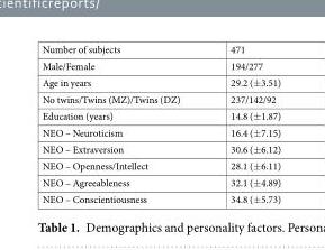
<table><tbody><tr><td>Number of subjects</td><td>471</td></tr><tr><td>Male/Female</td><td>194/277</td></tr><tr><td>Age in years</td><td>29.2 (±3.51)</td></tr><tr><td>No twins/Twins (MZ)/Twins (DZ)</td><td>237/142/92</td></tr><tr><td>Education (years)</td><td>14.8 (±1.87)</td></tr><tr><td>NEO – Neuroticism</td><td>16.4 (±7.15)</td></tr><tr><td>NEO – Extraversion</td><td>30.6 (±6.12)</td></tr><tr><td>NEO – Openness/Intellect</td><td>28.1 (±6.11)</td></tr><tr><td>NEO – Agreeableness</td><td>32.1 (±4.89)</td></tr><tr><td>NEO – Conscientiousness</td><td>34.8 (±5.73)</td></tr></tbody></table>